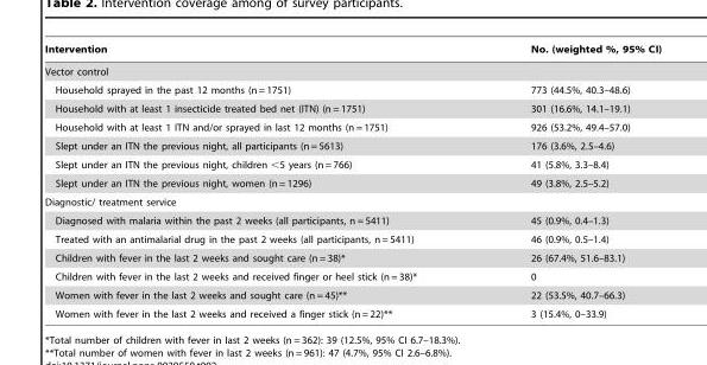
<table><thead><tr><td>Intervention</td><td>No. (weighted %, 95% CI)</td></tr></thead><tbody><tr><td colspan="2">Vector control</td></tr><tr><td>Household sprayed in the past 12 months (n = 1751)</td><td>773 (44.5%, 40.3–48.6)</td></tr><tr><td>Household with at least 1 insecticide treated bed net (ITN) (n = 1751)</td><td>301 (16.6%, 14.1–19.1)</td></tr><tr><td>Household with at least 1 ITN and/or sprayed in last 12 months (n = 1751)</td><td>926 (53.2%, 49.4–57.0)</td></tr><tr><td>Slept under an ITN the previous night, all participants (n = 5613)</td><td>176 (3.6%, 2.5–4.6)</td></tr><tr><td>Slept under an ITN the previous night, children &lt;5 years (n = 766)</td><td>41 (5.8%, 3.3–8.4)</td></tr><tr><td>Slept under an ITN the previous night, women (n = 1296)</td><td>49 (3.8%, 2.5–5.2)</td></tr><tr><td colspan="2">Diagnostic/ treatment service</td></tr><tr><td>Diagnosed with malaria within the past 2 weeks (all participants, n = 5411)</td><td>45 (0.9%, 0.4–1.3)</td></tr><tr><td>Treated with an antimalarial drug in the past 2 weeks (all participants, n = 5411)</td><td>46 (0.9%, 0.5–1.4)</td></tr><tr><td>Children with fever in the last 2 weeks and sought care (n = 38)*</td><td>26 (67.4%, 51.6–83.1)</td></tr><tr><td>Children with fever in the last 2 weeks and received finger or heel stick (n = 38)*</td><td>0</td></tr><tr><td>Women with fever in the last 2 weeks and sought care (n = 45)**</td><td>22 (53.5%, 40.7–66.3)</td></tr><tr><td>Women with fever in the last 2 weeks and received a finger stick (n = 22)**</td><td>3 (15.4%, 0–33.9)</td></tr></tbody></table>